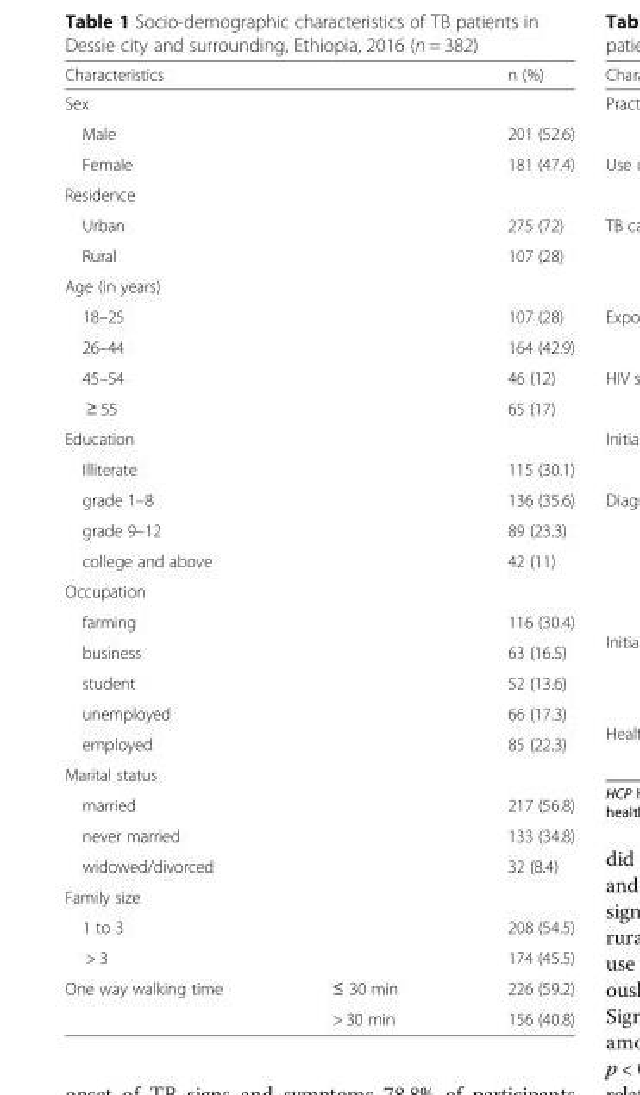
<table><thead><tr><td colspan="2">Characteristics</td><td>n (%)</td></tr></thead><tbody><tr><td colspan="3">Sex</td></tr><tr><td colspan="2">Male</td><td>201 (52.6)</td></tr><tr><td colspan="2">Female</td><td>181 (47.4)</td></tr><tr><td colspan="3">Residence</td></tr><tr><td colspan="2">Urban</td><td>275 (72)</td></tr><tr><td colspan="2">Rural</td><td>107 (28)</td></tr><tr><td colspan="3">Age (in years)</td></tr><tr><td colspan="2">18–25</td><td>107 (28)</td></tr><tr><td colspan="2">26–44</td><td>164 (42.9)</td></tr><tr><td colspan="2">45–54</td><td>46 (12)</td></tr><tr><td colspan="2">≥ 55</td><td>65 (17)</td></tr><tr><td colspan="3">Education</td></tr><tr><td colspan="2">Illiterate</td><td>115 (30.1)</td></tr><tr><td colspan="2">grade 1–8</td><td>136 (35.6)</td></tr><tr><td colspan="2">grade 9–12</td><td>89 (23.3)</td></tr><tr><td colspan="2">college and above</td><td>42 (11)</td></tr><tr><td colspan="3">Occupation</td></tr><tr><td colspan="2">farming</td><td>116 (30.4)</td></tr><tr><td colspan="2">business</td><td>63 (16.5)</td></tr><tr><td colspan="2">student</td><td>52 (13.6)</td></tr><tr><td colspan="2">unemployed</td><td>66 (17.3)</td></tr><tr><td colspan="2">employed</td><td>85 (22.3)</td></tr><tr><td colspan="3">Marital status</td></tr><tr><td colspan="2">married</td><td>217 (56.8)</td></tr><tr><td colspan="2">never married</td><td>133 (34.8)</td></tr><tr><td colspan="2">widowed/divorced</td><td>32 (8.4)</td></tr><tr><td colspan="3">Family size</td></tr><tr><td colspan="2">1 to 3</td><td>208 (54.5)</td></tr><tr><td colspan="2">&gt; 3</td><td>174 (45.5)</td></tr><tr><td rowspan="2">One way walking time</td><td>≤ 30 min</td><td>226 (59.2)</td></tr><tr><td>&gt; 30 min</td><td>156 (40.8)</td></tr></tbody></table>